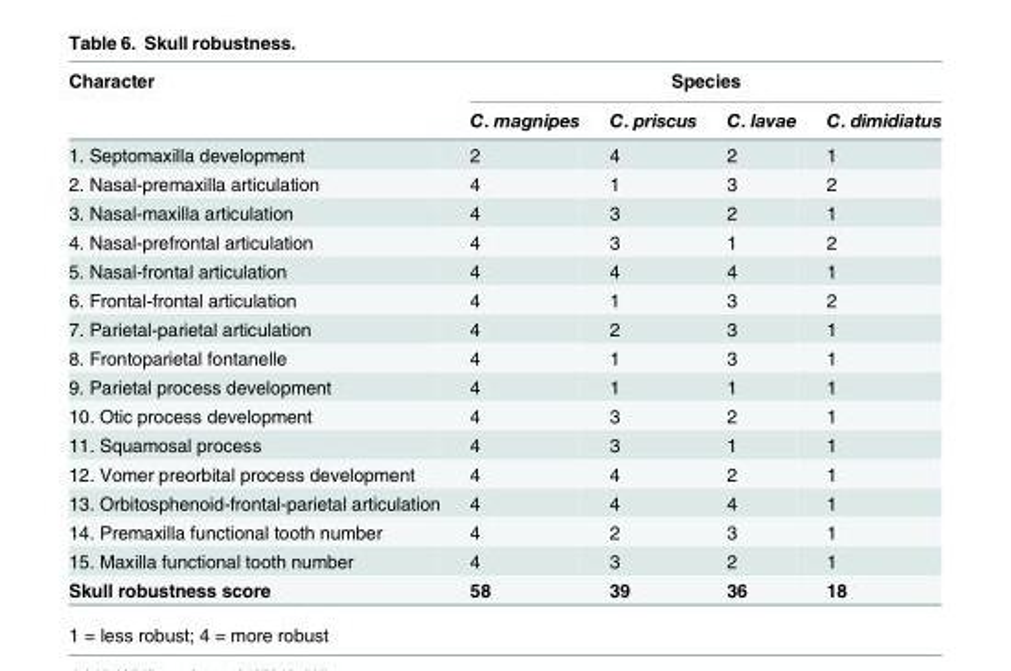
<table><thead><tr><td rowspan="2">Character</td><td colspan="4">Species</td></tr><tr><td>C. magnipes</td><td>C. priscus</td><td>C. lavae</td><td>C. dimidiatus</td></tr></thead><tbody><tr><td>1. Septomaxilla development</td><td>2</td><td>4</td><td>2</td><td>1</td></tr><tr><td>2. Nasal-premaxilla articulation</td><td>4</td><td>1</td><td>3</td><td>2</td></tr><tr><td>3. Nasal-maxilla articulation</td><td>4</td><td>3</td><td>2</td><td>1</td></tr><tr><td>4. Nasal-prefrontal articulation</td><td>4</td><td>3</td><td>1</td><td>2</td></tr><tr><td>5. Nasal-frontal articulation</td><td>4</td><td>4</td><td>4</td><td>1</td></tr><tr><td>6. Frontal-frontal articulation</td><td>4</td><td>1</td><td>3</td><td>2</td></tr><tr><td>7. Parietal-parietal articulation</td><td>4</td><td>2</td><td>3</td><td>1</td></tr><tr><td>8. Frontoparietal fontanelle</td><td>4</td><td>1</td><td>3</td><td>1</td></tr><tr><td>9. Parietal process development</td><td>4</td><td>1</td><td>1</td><td>1</td></tr><tr><td>10. Otic process development</td><td>4</td><td>3</td><td>2</td><td>1</td></tr><tr><td>11. Squamosal process</td><td>4</td><td>3</td><td>1</td><td>1</td></tr><tr><td>12. Vomer preorbital process development</td><td>4</td><td>4</td><td>2</td><td>1</td></tr><tr><td>13. Orbitosphenoid-frontal-parietal articulation</td><td>4</td><td>4</td><td>4</td><td>1</td></tr><tr><td>14. Premaxilla functional tooth number</td><td>4</td><td>2</td><td>3</td><td>1</td></tr><tr><td>15. Maxilla functional tooth number</td><td>4</td><td>3</td><td>2</td><td>1</td></tr><tr><td>Skull robustness score</td><td>58</td><td>39</td><td>36</td><td>18</td></tr></tbody></table>